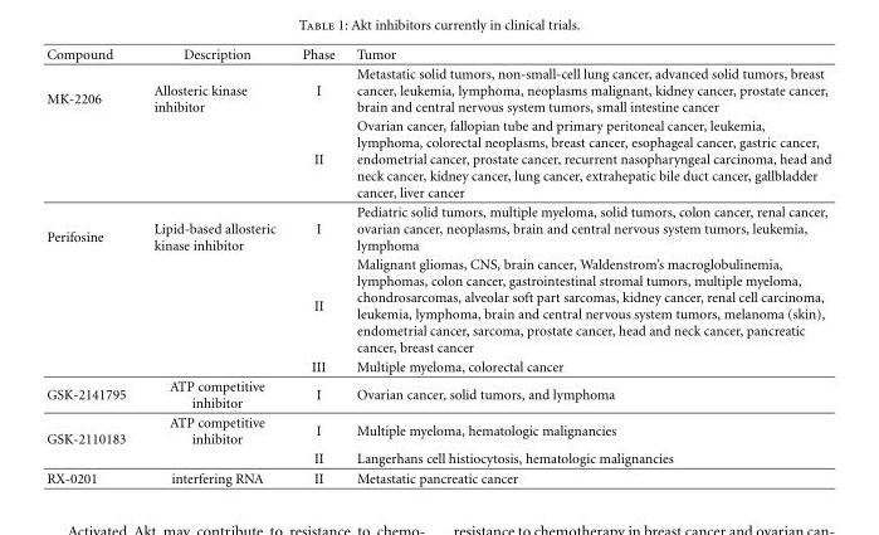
<table><thead><tr><td>Compound</td><td>Description</td><td>Phase</td><td>Tumor</td></tr></thead><tbody><tr><td rowspan="2">MK-2206</td><td rowspan="2">Allosteric kinase inhibitor</td><td>I</td><td>Metastatic solid tumors, non-small-cell lung cancer, advanced solid tumors, breast cancer, leukemia, lymphoma, neoplasms malignant, kidney cancer, prostate cancer, brain and central nervous system tumors, small intestine cancer</td></tr><tr><td>II</td><td>Ovarian cancer, fallopian tube and primary peritoneal cancer, leukemia, lymphoma, colorectal neoplasms, breast cancer, esophageal cancer, gastric cancer, endometrial cancer, prostate cancer, recurrent nasopharyngeal carcinoma, head and neck cancer, kidney cancer, lung cancer, extrahepatic bile duct cancer, gallbladder cancer, liver cancer</td></tr><tr><td rowspan="3">Perifosine</td><td rowspan="2">Lipid-based allosteric kinase inhibitor</td><td>I</td><td>Pediatric solid tumors, multiple myeloma, solid tumors, colon cancer, renal cancer, ovarian cancer, neoplasms, brain and central nervous system tumors, leukemia, lymphoma</td></tr><tr><td>II</td><td>Malignant gliomas, CNS, brain cancer, Waldenstrom’s macroglobulinemia, lymphomas, colon cancer, gastrointestinal stromal tumors, multiple myeloma, chondrosarcomas, alveolar soft part sarcomas, kidney cancer, renal cell carcinoma, leukemia, lymphoma, brain and central nervous system tumors, melanoma (skin), endometrial cancer, sarcoma, prostate cancer, head and neck cancer, pancreatic cancer, breast cancer</td></tr><tr><td></td><td>III</td><td>Multiple myeloma, colorectal cancer</td></tr><tr><td>GSK-2141795</td><td>ATP competitive inhibitor</td><td>I</td><td>Ovarian cancer, solid tumors, and lymphoma</td></tr><tr><td rowspan="2">GSK-2110183</td><td>ATP competitive inhibitor</td><td>I</td><td>Multiple myeloma, hematologic malignancies</td></tr><tr><td></td><td>II</td><td>Langerhans cell histiocytosis, hematologic malignancies</td></tr><tr><td>RX-0201</td><td>interfering RNA</td><td>II</td><td>Metastatic pancreatic cancer</td></tr></tbody></table>